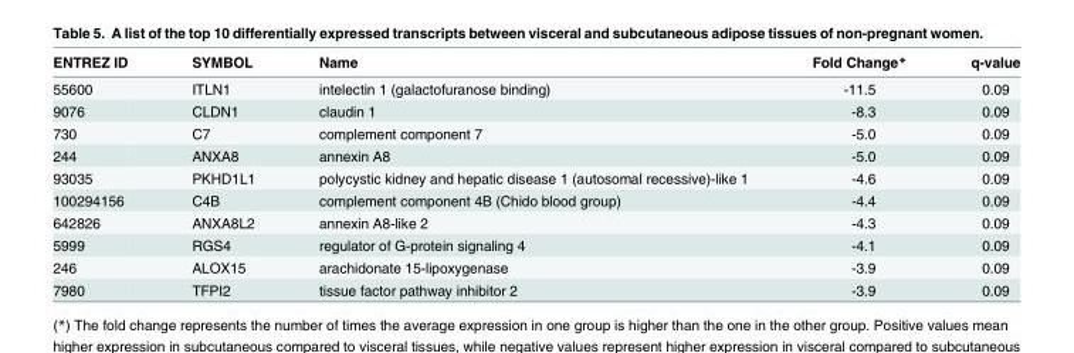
<table><thead><tr><td>ENTREZ ID</td><td>SYMBOL</td><td>Name</td><td>Fold Change*</td><td>q-value</td></tr></thead><tbody><tr><td>55600</td><td>ITLN1</td><td>intelectin 1 (galactofuranose binding)</td><td>-11.5</td><td>0.09</td></tr><tr><td>9076</td><td>CLDN1</td><td>claudin 1</td><td>-8.3</td><td>0.09</td></tr><tr><td>730</td><td>C7</td><td>complement component 7</td><td>-5.0</td><td>0.09</td></tr><tr><td>244</td><td>ANXA8</td><td>annexin A8</td><td>-5.0</td><td>0.09</td></tr><tr><td>93035</td><td>PKHD1L1</td><td>polycystic kidney and hepatic disease 1 (autosomal recessive)-like 1</td><td>-4.6</td><td>0.09</td></tr><tr><td>100294156</td><td>C4B</td><td>complement component 4B (Chido blood group)</td><td>-4.4</td><td>0.09</td></tr><tr><td>642826</td><td>ANXA8L2</td><td>annexin A8-like 2</td><td>-4.3</td><td>0.09</td></tr><tr><td>5999</td><td>RGS4</td><td>regulator of G-protein signaling 4</td><td>-4.1</td><td>0.09</td></tr><tr><td>246</td><td>ALOX15</td><td>arachidonate 15-lipoxygenase</td><td>-3.9</td><td>0.09</td></tr><tr><td>7980</td><td>TFPI2</td><td>tissue factor pathway inhibitor 2</td><td>-3.9</td><td>0.09</td></tr></tbody></table>